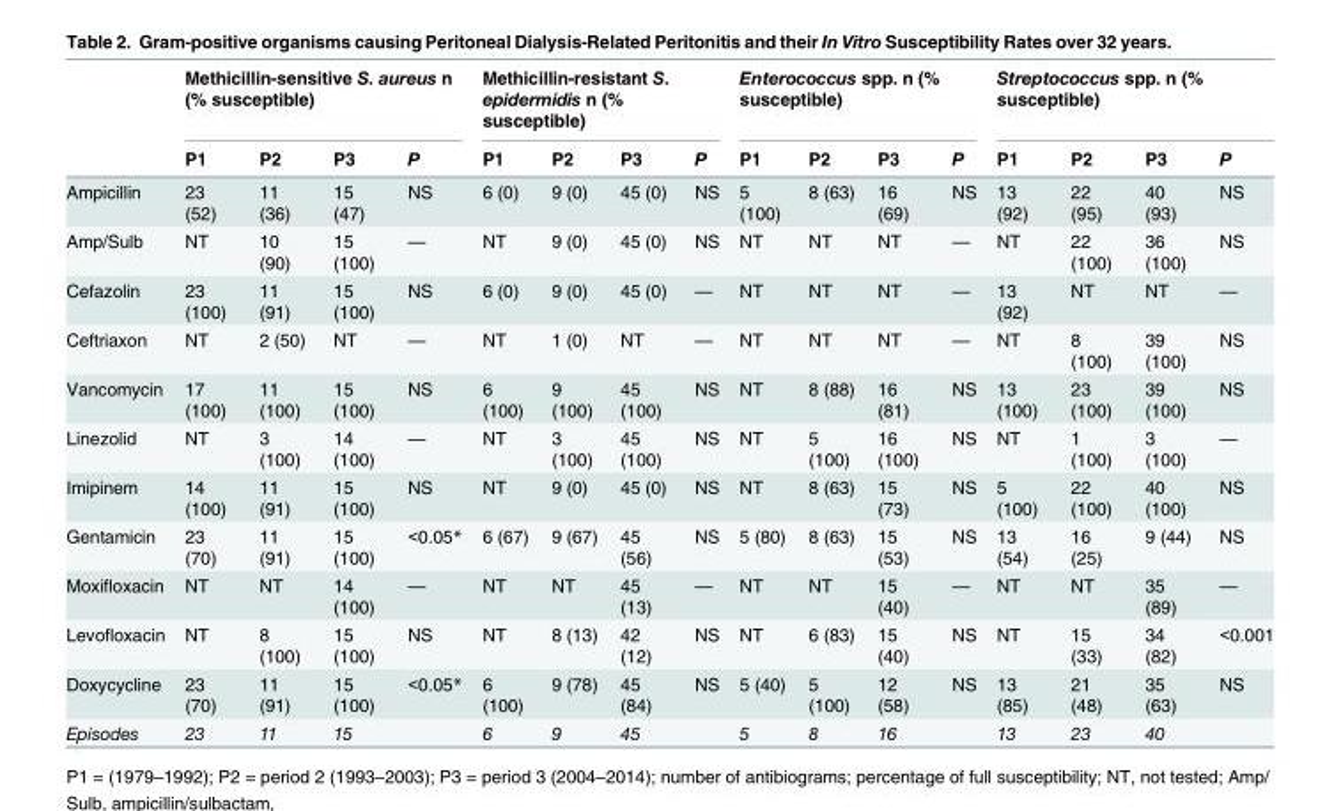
<table><thead><tr><td rowspan="2"></td><td colspan="4">Methicillin-sensitive S. aureus n (% susceptible)</td><td colspan="4">Methicillin-resistant S. epidermidis n (% susceptible)</td><td colspan="4">Enterococcus spp. n (% susceptible)</td><td colspan="4">Streptococcus spp. n (% susceptible)</td></tr><tr><td>P1</td><td>P2</td><td>P3</td><td>P</td><td>P1</td><td>P2</td><td>P3</td><td>P</td><td>P1</td><td>P2</td><td>P3</td><td>P</td><td>P1</td><td>P2</td><td>P3</td><td>P</td></tr></thead><tbody><tr><td>Ampicillin</td><td>23 (52)</td><td>11 (36)</td><td>15 (47)</td><td>NS</td><td>6 (0)</td><td>9 (0)</td><td>45 (0)</td><td>NS</td><td>5 (100)</td><td>8 (63)</td><td>16 (69)</td><td>NS</td><td>13 (92)</td><td>22 (95)</td><td>40 (93)</td><td>NS</td></tr><tr><td>Amp/Sulb</td><td>NT</td><td>10 (90)</td><td>15 (100)</td><td>—</td><td>NT</td><td>9 (0)</td><td>45 (0)</td><td>NS</td><td>NT</td><td>NT</td><td>NT</td><td>—</td><td>NT</td><td>22 (100)</td><td>36 (100)</td><td>NS</td></tr><tr><td>Cefazolin</td><td>23 (100)</td><td>11 (91)</td><td>15 (100)</td><td>NS</td><td>6 (0)</td><td>9 (0)</td><td>45 (0)</td><td>—</td><td>NT</td><td>NT</td><td>NT</td><td>—</td><td>13 (92)</td><td>NT</td><td>NT</td><td>—</td></tr><tr><td>Ceftriaxon</td><td>NT</td><td>2 (50)</td><td>NT</td><td>—</td><td>NT</td><td>1 (0)</td><td>NT</td><td>—</td><td>NT</td><td>NT</td><td>NT</td><td>—</td><td>NT</td><td>8 (100)</td><td>39 (100)</td><td>NS</td></tr><tr><td>Vancomycin</td><td>17 (100)</td><td>11 (100)</td><td>15 (100)</td><td>NS</td><td>6 (100)</td><td>9 (100)</td><td>45 (100)</td><td>NS</td><td>NT</td><td>8 (88)</td><td>16 (81)</td><td>NS</td><td>13 (100)</td><td>23 (100)</td><td>39 (100)</td><td>NS</td></tr><tr><td>Linezolid</td><td>NT</td><td>3 (100)</td><td>14 (100)</td><td>—</td><td>NT</td><td>3 (100)</td><td>45 (100)</td><td>NS</td><td>NT</td><td>5 (100)</td><td>16 (100)</td><td>NS</td><td>NT</td><td>1 (100)</td><td>3 (100)</td><td>—</td></tr><tr><td>Imipinem</td><td>14 (100)</td><td>11 (91)</td><td>15 (100)</td><td>NS</td><td>NT</td><td>9 (0)</td><td>45 (0)</td><td>NS</td><td>NT</td><td>8 (63)</td><td>15 (73)</td><td>NS</td><td>5 (100)</td><td>22 (100)</td><td>40 (100)</td><td>NS</td></tr><tr><td>Gentamicin</td><td>23 (70)</td><td>11 (91)</td><td>15 (100)</td><td>&lt;0.05*</td><td>6 (67)</td><td>9 (67)</td><td>45 (56)</td><td>NS</td><td>5 (80)</td><td>8 (63)</td><td>15 (53)</td><td>NS</td><td>13 (54)</td><td>16 (25)</td><td>9 (44)</td><td>NS</td></tr><tr><td>Moxifloxacin</td><td>NT</td><td>NT</td><td>14 (100)</td><td>—</td><td>NT</td><td>NT</td><td>45 (13)</td><td>—</td><td>NT</td><td>NT</td><td>15 (40)</td><td>—</td><td>NT</td><td>NT</td><td>35 (89)</td><td>—</td></tr><tr><td>Levofloxacin</td><td>NT</td><td>8 (100)</td><td>15 (100)</td><td>NS</td><td>NT</td><td>8 (13)</td><td>42 (12)</td><td>NS</td><td>NT</td><td>6 (83)</td><td>15 (40)</td><td>NS</td><td>NT</td><td>15 (33)</td><td>34 (82)</td><td>&lt;0.001</td></tr><tr><td>Doxycycline</td><td>23 (70)</td><td>11 (91)</td><td>15 (100)</td><td>&lt;0.05*</td><td>6 (100)</td><td>9 (78)</td><td>45 (84)</td><td>NS</td><td>5 (40)</td><td>5 (100)</td><td>12 (58)</td><td>NS</td><td>13 (85)</td><td>21 (48)</td><td>35 (63)</td><td>NS</td></tr><tr><td>Episodes</td><td>23</td><td>11</td><td>15</td><td></td><td>6</td><td>9</td><td>45</td><td></td><td>5</td><td>8</td><td>16</td><td></td><td>13</td><td>23</td><td>40</td><td></td></tr></tbody></table>